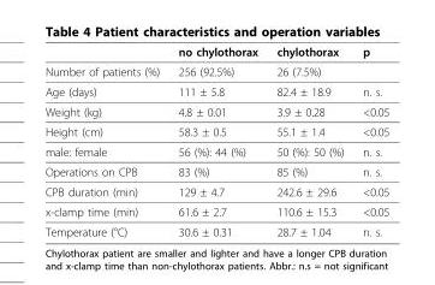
<table><thead><tr><td></td><td>no chylothorax</td><td>chylothorax</td><td>p</td></tr></thead><tbody><tr><td>Number of patients (%)</td><td>256 (92.5%)</td><td>26 (7.5%)</td><td></td></tr><tr><td>Age (days)</td><td>111 ± 5.8</td><td>82.4 ± 18.9</td><td>n. s.</td></tr><tr><td>Weight (kg)</td><td>4.8 ± 0.01</td><td>3.9 ± 0.28</td><td>&lt;0.05</td></tr><tr><td>Height (cm)</td><td>58.3 ± 0.5</td><td>55.1 ± 1.4</td><td>&lt;0.05</td></tr><tr><td>male: female</td><td>56 (%): 44 (%)</td><td>50 (%): 50 (%)</td><td>n. s.</td></tr><tr><td>Operations on CPB</td><td>83 (%)</td><td>85 (%)</td><td>n. s.</td></tr><tr><td>CPB duration (min)</td><td>129 ± 4.7</td><td>242.6 ± 29.6</td><td>&lt;0.05</td></tr><tr><td>x-clamp time (min)</td><td>61.6 ± 2.7</td><td>110.6 ± 15.3</td><td>&lt;0.05</td></tr><tr><td>Temperature (°C)</td><td>30.6 ± 0.31</td><td>28.7 ± 1.04</td><td>n. s.</td></tr></tbody></table>